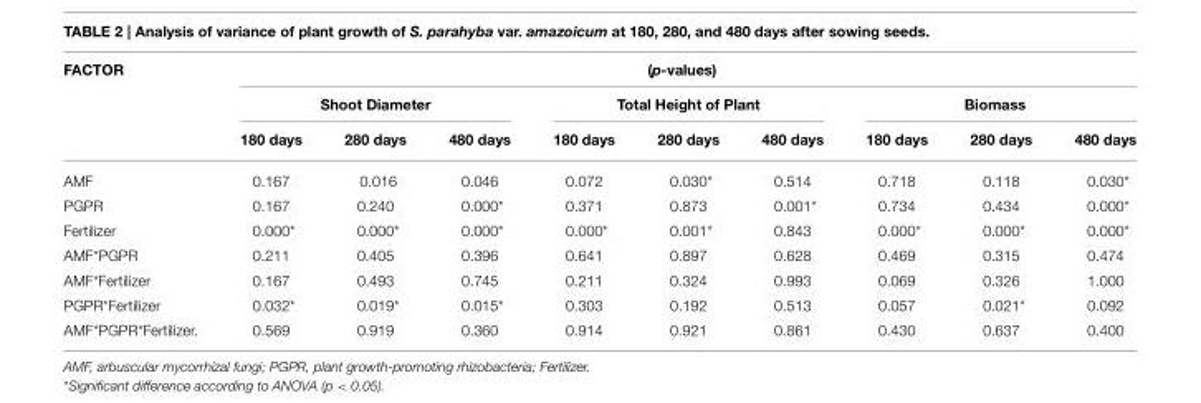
<table><thead><tr><td rowspan="3">FACTOR</td><td colspan="9">(p-values)</td></tr><tr><td colspan="3">Shoot Diameter</td><td colspan="3">Total Height of Plant</td><td colspan="3">Biomass</td></tr><tr><td>180 days</td><td>280 days</td><td>480 days</td><td>180 days</td><td>280 days</td><td>480 days</td><td>180 days</td><td>280 days</td><td>480 days</td></tr></thead><tbody><tr><td>AMF</td><td>0.167</td><td>0.016</td><td>0.046</td><td>0.072</td><td>0.030*</td><td>0.514</td><td>0.718</td><td>0.118</td><td>0.030*</td></tr><tr><td>PGPR</td><td>0.167</td><td>0.240</td><td>0.000*</td><td>0.371</td><td>0.873</td><td>0.001*</td><td>0.734</td><td>0.434</td><td>0.000*</td></tr><tr><td>Fertilizer</td><td>0.000*</td><td>0.000*</td><td>0.000*</td><td>0.000*</td><td>0.001*</td><td>0.843</td><td>0.000*</td><td>0.000*</td><td>0.000*</td></tr><tr><td>AMF*PGPR</td><td>0.211</td><td>0.405</td><td>0.396</td><td>0.641</td><td>0.897</td><td>0.628</td><td>0.469</td><td>0.315</td><td>0.474</td></tr><tr><td>AMF*Fertilizer</td><td>0.167</td><td>0.493</td><td>0.745</td><td>0.211</td><td>0.324</td><td>0.993</td><td>0.069</td><td>0.326</td><td>1.000</td></tr><tr><td>PGPR*Fertilizer</td><td>0.032*</td><td>0.019*</td><td>0.015*</td><td>0.303</td><td>0.192</td><td>0.513</td><td>0.057</td><td>0.021*</td><td>0.092</td></tr><tr><td>AMF*PGPR*Fertilizer.</td><td>0.569</td><td>0.919</td><td>0.360</td><td>0.914</td><td>0.921</td><td>0.861</td><td>0.430</td><td>0.637</td><td>0.400</td></tr></tbody></table>